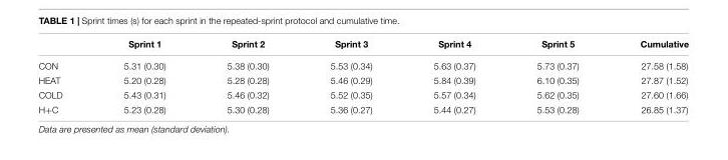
<table><thead><tr><td></td><td>Sprint 1</td><td>Sprint 2</td><td>Sprint 3</td><td>Sprint 4</td><td>Sprint 5</td><td>Cumulative</td></tr></thead><tbody><tr><td>CON</td><td>5.31 (0.30)</td><td>5.38 (0.30)</td><td>5.53 (0.34)</td><td>5.63 (0.37)</td><td>5.73 (0.37)</td><td>27.58 (1.58)</td></tr><tr><td>HEAT</td><td>5.20 (0.28)</td><td>5.28 (0.28)</td><td>5.46 (0.29)</td><td>5.84 (0.39)</td><td>6.10 (0.35)</td><td>27.87 (1.52)</td></tr><tr><td>COLD</td><td>5.43 (0.31)</td><td>5.46 (0.32)</td><td>5.52 (0.35)</td><td>5.57 (0.34)</td><td>5.62 (0.35)</td><td>27.60 (1.66)</td></tr><tr><td>H+C</td><td>5.23 (0.28)</td><td>5.30 (0.28)</td><td>5.36 (0.27)</td><td>5.44 (0.27)</td><td>5.53 (0.28)</td><td>26.85 (1.37)</td></tr></tbody></table>